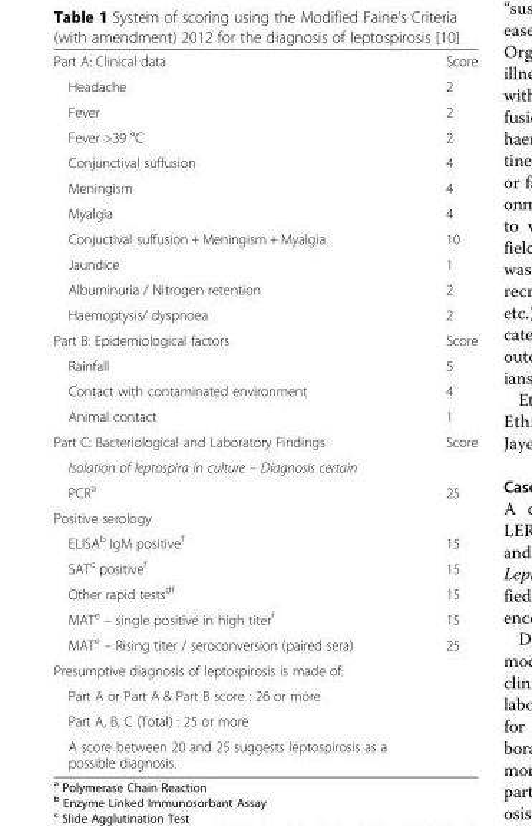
<table><tbody><tr><td>Part A: Clinical data</td><td>Score</td></tr><tr><td>Headache</td><td>2</td></tr><tr><td>Fever</td><td>2</td></tr><tr><td>Fever &gt;39 °C</td><td>2</td></tr><tr><td>Conjunctival suffusion</td><td>4</td></tr><tr><td>Meningism</td><td>4</td></tr><tr><td>Myalgia</td><td>4</td></tr><tr><td>Conjuctival suffusion + Meningism + Myalgia</td><td>10</td></tr><tr><td>Jaundice</td><td>1</td></tr><tr><td>Albuminuria / Nitrogen retention</td><td>2</td></tr><tr><td>Haemoptysis/ dyspnoea</td><td>2</td></tr><tr><td>Part B: Epidemiological factors</td><td>Score</td></tr><tr><td>Rainfall</td><td>5</td></tr><tr><td>Contact with contaminated environment</td><td>4</td></tr><tr><td>Animal contact</td><td>1</td></tr><tr><td>Part C: Bacteriological and Laboratory Findings</td><td>Score</td></tr><tr><td colspan="2">Isolation of leptospira in culture – Diagnosis certain</td></tr><tr><td>PCR<sup>a</sup></td><td>25</td></tr><tr><td colspan="2">Positive serology</td></tr><tr><td>ELISA<sup>b</sup> IgM positive<sup>f</sup></td><td>15</td></tr><tr><td>SAT<sup>c</sup> positive<sup>f</sup></td><td>15</td></tr><tr><td>Other rapid tests<sup>df</sup></td><td>15</td></tr><tr><td>MAT<sup>e</sup> – single positive in high titer<sup>f</sup></td><td>15</td></tr><tr><td>MAT<sup>e</sup> – Rising titer / seroconversion (paired sera)</td><td>25</td></tr><tr><td colspan="2">Presumptive diagnosis of leptospirosis is made of:</td></tr><tr><td colspan="2">Part A or Part A &amp; Part B score : 26 or more</td></tr><tr><td colspan="2">Part A, B, C (Total) : 25 or more</td></tr><tr><td>A score between 20 and 25 suggests leptospirosis as a possible diagnosis.</td><td></td></tr></tbody></table>